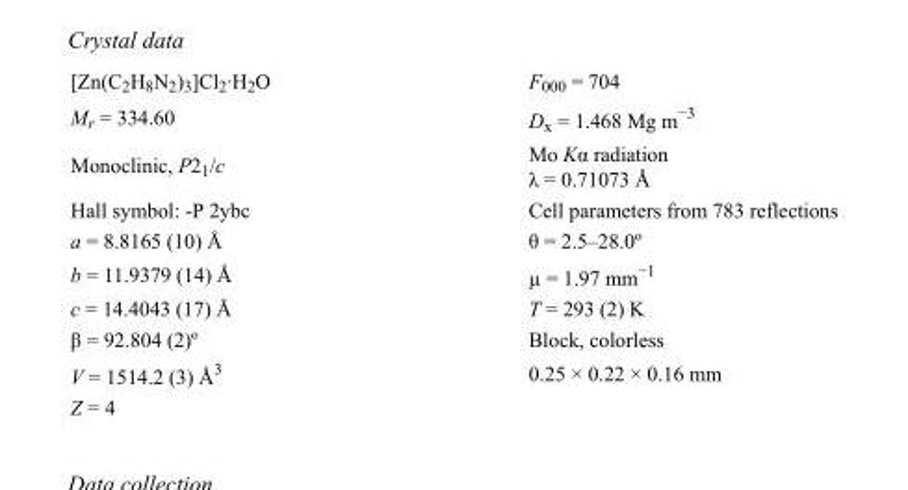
<table><tbody><tr><td>[Zn(C<sub>2</sub>H<sub>8</sub>N<sub>2</sub>)<sub>3</sub>]Cl<sub>2</sub>·H<sub>2</sub>O</td><td>F000 = 704</td></tr><tr><td>M<sub>r</sub> = 334.60</td><td>D<sub>x</sub> = 1.468 Mg m<sup>−3</sup></td></tr><tr><td>Monoclinic, P2<sub>1</sub>/c</td><td>Mo Kα radiation λ = 0.71073 Å</td></tr><tr><td>Hall symbol: -P 2ybc</td><td>Cell parameters from 783 reflections</td></tr><tr><td>a = 8.8165 (10) Å</td><td>θ = 2.5–28.0º</td></tr><tr><td>b = 11.9379 (14) Å</td><td>µ = 1.97 mm<sup>−1</sup></td></tr><tr><td>c = 14.4043 (17) Å</td><td>T = 293 (2) K</td></tr><tr><td>β = 92.804 (2)º</td><td>Block, colorless</td></tr><tr><td>V = 1514.2 (3) Å<sup>3</sup></td><td>0.25 × 0.22 × 0.16 mm</td></tr><tr><td>Z = 4</td><td></td></tr></tbody></table>